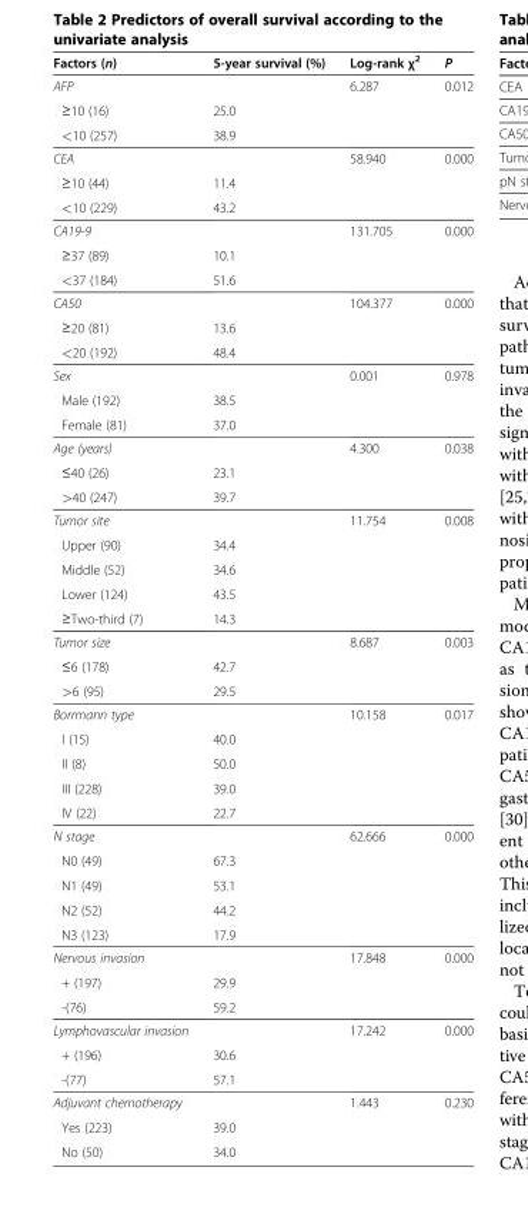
<table><thead><tr><td>Factors (n)</td><td>5-year survival (%)</td><td>Log-rank χ<sup>2</sup></td><td>P</td></tr></thead><tbody><tr><td>AFP</td><td></td><td>6.287</td><td>0.012</td></tr><tr><td>≥10 (16)</td><td>25.0</td><td></td><td></td></tr><tr><td>&lt;10 (257)</td><td>38.9</td><td></td><td></td></tr><tr><td>CEA</td><td></td><td>58.940</td><td>0.000</td></tr><tr><td>≥10 (44)</td><td>11.4</td><td></td><td></td></tr><tr><td>&lt;10 (229)</td><td>43.2</td><td></td><td></td></tr><tr><td>CA19-9</td><td></td><td>131.705</td><td>0.000</td></tr><tr><td>≥37 (89)</td><td>10.1</td><td></td><td></td></tr><tr><td>&lt;37 (184)</td><td>51.6</td><td></td><td></td></tr><tr><td>CA50</td><td></td><td>104.377</td><td>0.000</td></tr><tr><td>≥20 (81)</td><td>13.6</td><td></td><td></td></tr><tr><td>&lt;20 (192)</td><td>48.4</td><td></td><td></td></tr><tr><td>Sex</td><td></td><td>0.001</td><td>0.978</td></tr><tr><td>Male (192)</td><td>38.5</td><td></td><td></td></tr><tr><td>Female (81)</td><td>37.0</td><td></td><td></td></tr><tr><td>Age (years)</td><td></td><td>4.300</td><td>0.038</td></tr><tr><td>≤40 (26)</td><td>23.1</td><td></td><td></td></tr><tr><td>&gt;40 (247)</td><td>39.7</td><td></td><td></td></tr><tr><td>Tumor site</td><td></td><td>11.754</td><td>0.008</td></tr><tr><td>Upper (90)</td><td>34.4</td><td></td><td></td></tr><tr><td>Middle (52)</td><td>34.6</td><td></td><td></td></tr><tr><td>Lower (124)</td><td>43.5</td><td></td><td></td></tr><tr><td>≥Two-third (7)</td><td>14.3</td><td></td><td></td></tr><tr><td>Tumor size</td><td></td><td>8.687</td><td>0.003</td></tr><tr><td>≤6 (178)</td><td>42.7</td><td></td><td></td></tr><tr><td>&gt;6 (95)</td><td>29.5</td><td></td><td></td></tr><tr><td>Borrmann type</td><td></td><td>10.158</td><td>0.017</td></tr><tr><td>I (15)</td><td>40.0</td><td></td><td></td></tr><tr><td>II (8)</td><td>50.0</td><td></td><td></td></tr><tr><td>III (228)</td><td>39.0</td><td></td><td></td></tr><tr><td>IV (22)</td><td>22.7</td><td></td><td></td></tr><tr><td>N stage</td><td></td><td>62.666</td><td>0.000</td></tr><tr><td>N0 (49)</td><td>67.3</td><td></td><td></td></tr><tr><td>N1 (49)</td><td>53.1</td><td></td><td></td></tr><tr><td>N2 (52)</td><td>44.2</td><td></td><td></td></tr><tr><td>N3 (123)</td><td>17.9</td><td></td><td></td></tr><tr><td>Nervous invasion</td><td></td><td>17.848</td><td>0.000</td></tr><tr><td>+ (197)</td><td>29.9</td><td></td><td></td></tr><tr><td>-(76)</td><td>59.2</td><td></td><td></td></tr><tr><td>Lymphovascular invasion</td><td></td><td>17.242</td><td>0.000</td></tr><tr><td>+ (196)</td><td>30.6</td><td></td><td></td></tr><tr><td>-(77)</td><td>57.1</td><td></td><td></td></tr><tr><td>Adjuvant chemotherapy</td><td></td><td>1.443</td><td>0.230</td></tr><tr><td>Yes (223)</td><td>39.0</td><td></td><td></td></tr><tr><td>No (50)</td><td>34.0</td><td></td><td></td></tr></tbody></table>